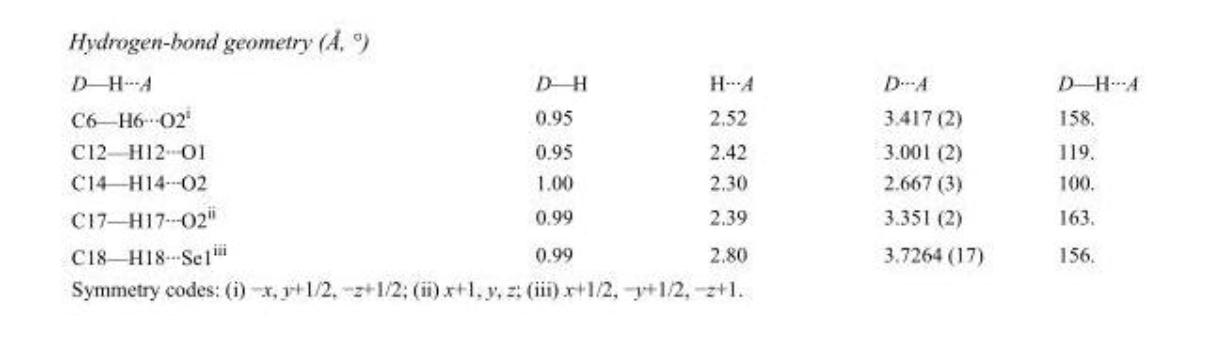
<table><tbody><tr><td>D—H···A</td><td>D—H</td><td>H···A</td><td>D···A</td><td>D—H···A</td></tr><tr><td>C6—H6···O2<sup>i</sup></td><td>0.95</td><td>2.52</td><td>3.417 (2)</td><td>158.</td></tr><tr><td>C12—H12···O1</td><td>0.95</td><td>2.42</td><td>3.001 (2)</td><td>119.</td></tr><tr><td>C14—H14···O2</td><td>1.00</td><td>2.30</td><td>2.667 (3)</td><td>100.</td></tr><tr><td>C17—H17···O2<sup>ii</sup></td><td>0.99</td><td>2.39</td><td>3.351 (2)</td><td>163.</td></tr><tr><td>C18—H18···Se1<sup>iii</sup></td><td>0.99</td><td>2.80</td><td>3.7264 (17)</td><td>156.</td></tr></tbody></table>